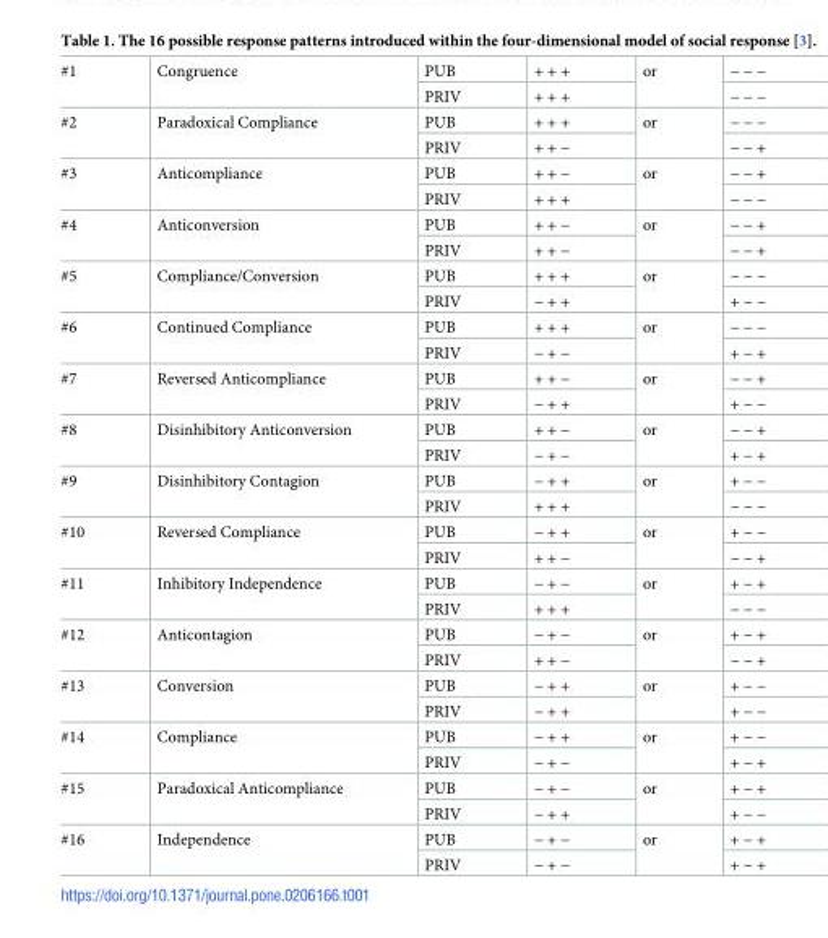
<table><tbody><tr><td rowspan="2">#1</td><td rowspan="2">Congruence</td><td>PUB</td><td>+ + +</td><td rowspan="2">or</td><td>− − −</td></tr><tr><td>PRIV</td><td>+ + +</td><td>− − −</td></tr><tr><td rowspan="2">#2</td><td rowspan="2">Paradoxical Compliance</td><td>PUB</td><td>+ + +</td><td rowspan="2">or</td><td>− − −</td></tr><tr><td>PRIV</td><td>+ + −</td><td>− − +</td></tr><tr><td rowspan="2">#3</td><td rowspan="2">Anticompliance</td><td>PUB</td><td>+ + −</td><td rowspan="2">or</td><td>− − +</td></tr><tr><td>PRIV</td><td>+ + +</td><td>− − −</td></tr><tr><td rowspan="2">#4</td><td rowspan="2">Anticonversion</td><td>PUB</td><td>+ + −</td><td rowspan="2">or</td><td>− − +</td></tr><tr><td>PRIV</td><td>+ + −</td><td>− − +</td></tr><tr><td rowspan="2">#5</td><td rowspan="2">Compliance/Conversion</td><td>PUB</td><td>+ + +</td><td rowspan="2">or</td><td>− − −</td></tr><tr><td>PRIV</td><td>− + +</td><td>+ − −</td></tr><tr><td rowspan="2">#6</td><td rowspan="2">Continued Compliance</td><td>PUB</td><td>+ + +</td><td rowspan="2">or</td><td>− − −</td></tr><tr><td>PRIV</td><td>− + −</td><td>+ − +</td></tr><tr><td rowspan="2">#7</td><td rowspan="2">Reversed Anticompliance</td><td>PUB</td><td>+ + −</td><td rowspan="2">or</td><td>− − +</td></tr><tr><td>PRIV</td><td>− + +</td><td>+ − −</td></tr><tr><td rowspan="2">#8</td><td rowspan="2">Disinhibitory Anticonversion</td><td>PUB</td><td>+ + −</td><td rowspan="2">or</td><td>− − +</td></tr><tr><td>PRIV</td><td>− + −</td><td>+ − +</td></tr><tr><td rowspan="2">#9</td><td rowspan="2">Disinhibitory Contagion</td><td>PUB</td><td>− + +</td><td rowspan="2">or</td><td>+ − −</td></tr><tr><td>PRIV</td><td>+ + +</td><td>− − −</td></tr><tr><td rowspan="2">#10</td><td rowspan="2">Reversed Compliance</td><td>PUB</td><td>− + +</td><td rowspan="2">or</td><td>+ − −</td></tr><tr><td>PRIV</td><td>+ + −</td><td>− − +</td></tr><tr><td rowspan="2">#11</td><td rowspan="2">Inhibitory Independence</td><td>PUB</td><td>− + −</td><td rowspan="2">or</td><td>+ − +</td></tr><tr><td>PRIV</td><td>+ + +</td><td>− − −</td></tr><tr><td rowspan="2">#12</td><td rowspan="2">Anticontagion</td><td>PUB</td><td>− + −</td><td rowspan="2">or</td><td>+ − +</td></tr><tr><td>PRIV</td><td>+ + −</td><td>− − +</td></tr><tr><td rowspan="2">#13</td><td rowspan="2">Conversion</td><td>PUB</td><td>− + +</td><td rowspan="2">or</td><td>+ − −</td></tr><tr><td>PRIV</td><td>− + +</td><td>+ − −</td></tr><tr><td rowspan="2">#14</td><td rowspan="2">Compliance</td><td>PUB</td><td>− + +</td><td rowspan="2">or</td><td>+ − −</td></tr><tr><td>PRIV</td><td>− + −</td><td>+ − +</td></tr><tr><td rowspan="2">#15</td><td rowspan="2">Paradoxical Anticompliance</td><td>PUB</td><td>− + −</td><td rowspan="2">or</td><td>+ − +</td></tr><tr><td>PRIV</td><td>− + +</td><td>+ − −</td></tr><tr><td rowspan="2">#16</td><td rowspan="2">Independence</td><td>PUB</td><td>− + −</td><td rowspan="2">or</td><td>+ − +</td></tr><tr><td>PRIV</td><td>− + −</td><td>+ − +</td></tr></tbody></table>